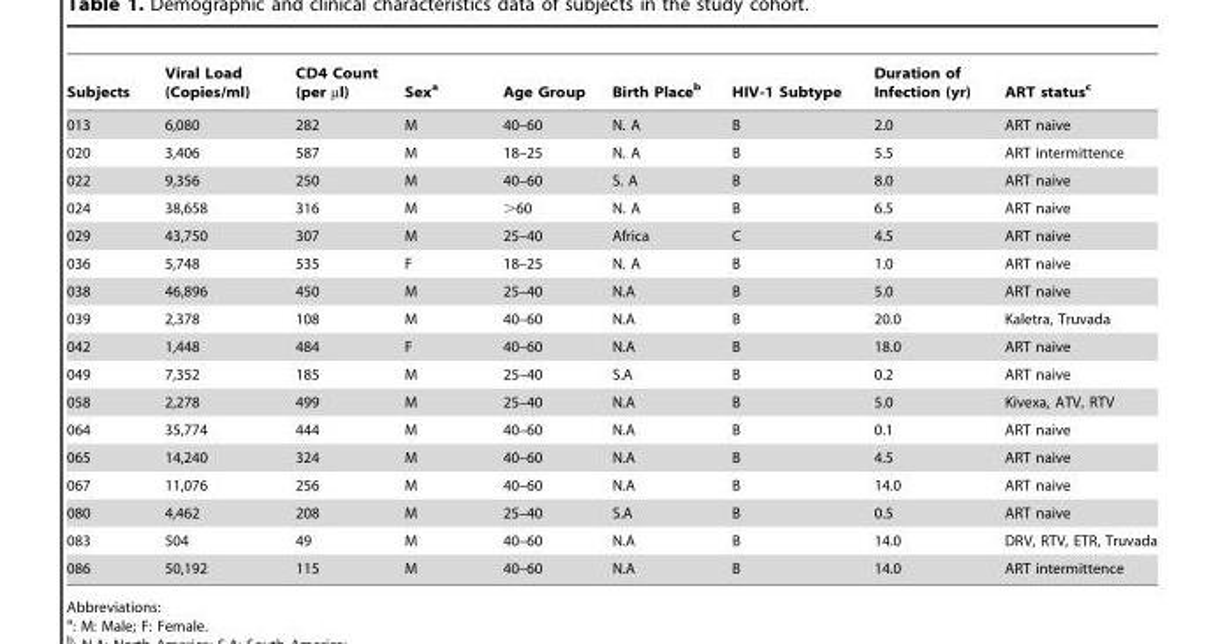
<table><thead><tr><td>Subjects</td><td>Viral Load (Copies/ml)</td><td>CD4 Count (per µl)</td><td>Sex<sup>a</sup></td><td>Age Group</td><td>Birth Place<sup>b</sup></td><td>HIV-1 Subtype</td><td>Duration of Infection (yr)</td><td>ART status<sup>c</sup></td></tr></thead><tbody><tr><td>013</td><td>6,080</td><td>282</td><td>M</td><td>40–60</td><td>N. A</td><td>B</td><td>2.0</td><td>ART naive</td></tr><tr><td>020</td><td>3,406</td><td>587</td><td>M</td><td>18–25</td><td>N. A</td><td>B</td><td>5.5</td><td>ART intermittence</td></tr><tr><td>022</td><td>9,356</td><td>250</td><td>M</td><td>40–60</td><td>S. A</td><td>B</td><td>8.0</td><td>ART naive</td></tr><tr><td>024</td><td>38,658</td><td>316</td><td>M</td><td>&gt;60</td><td>N. A</td><td>B</td><td>6.5</td><td>ART naive</td></tr><tr><td>029</td><td>43,750</td><td>307</td><td>M</td><td>25–40</td><td>Africa</td><td>C</td><td>4.5</td><td>ART naive</td></tr><tr><td>036</td><td>5,748</td><td>535</td><td>F</td><td>18–25</td><td>N. A</td><td>B</td><td>1.0</td><td>ART naive</td></tr><tr><td>038</td><td>46,896</td><td>450</td><td>M</td><td>25–40</td><td>N.A</td><td>B</td><td>5.0</td><td>ART naive</td></tr><tr><td>039</td><td>2,378</td><td>108</td><td>M</td><td>40–60</td><td>N.A</td><td>B</td><td>20.0</td><td>Kaletra, Truvada</td></tr><tr><td>042</td><td>1,448</td><td>484</td><td>F</td><td>40–60</td><td>N.A</td><td>B</td><td>18.0</td><td>ART naive</td></tr><tr><td>049</td><td>7,352</td><td>185</td><td>M</td><td>25–40</td><td>S.A</td><td>B</td><td>0.2</td><td>ART naive</td></tr><tr><td>058</td><td>2,278</td><td>499</td><td>M</td><td>25–40</td><td>N.A</td><td>B</td><td>5.0</td><td>Kivexa, ATV, RTV</td></tr><tr><td>064</td><td>35,774</td><td>444</td><td>M</td><td>40–60</td><td>N.A</td><td>B</td><td>0.1</td><td>ART naive</td></tr><tr><td>065</td><td>14,240</td><td>324</td><td>M</td><td>40–60</td><td>N.A</td><td>B</td><td>4.5</td><td>ART naive</td></tr><tr><td>067</td><td>11,076</td><td>256</td><td>M</td><td>40–60</td><td>N.A</td><td>B</td><td>14.0</td><td>ART naive</td></tr><tr><td>080</td><td>4,462</td><td>208</td><td>M</td><td>25–40</td><td>S.A</td><td>B</td><td>0.5</td><td>ART naive</td></tr><tr><td>083</td><td>504</td><td>49</td><td>M</td><td>40–60</td><td>N.A</td><td>B</td><td>14.0</td><td>DRV, RTV, ETR, Truvada</td></tr><tr><td>086</td><td>50,192</td><td>115</td><td>M</td><td>40–60</td><td>N.A</td><td>B</td><td>14.0</td><td>ART intermittence</td></tr></tbody></table>